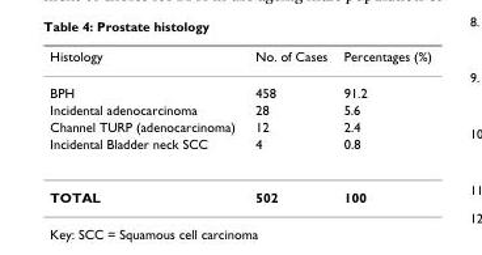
<table><thead><tr><td>Histology</td><td>No. of Cases</td><td>Percentages (%)</td></tr></thead><tbody><tr><td>BPH</td><td>458</td><td>91.2</td></tr><tr><td>Incidental adenocarcinoma</td><td>28</td><td>5.6</td></tr><tr><td>Channel TURP (adenocarcinoma)</td><td>12</td><td>2.4</td></tr><tr><td>Incidental Bladder neck SCC</td><td>4</td><td>0.8</td></tr><tr><td>TOTAL</td><td>502</td><td>100</td></tr></tbody></table>